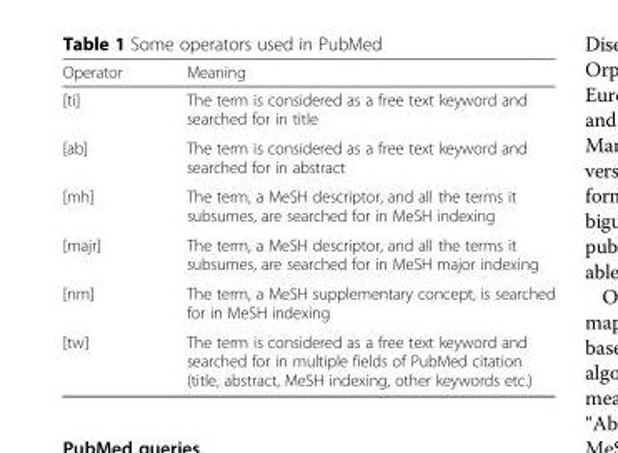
<table><thead><tr><td>Operator</td><td>Meaning</td></tr></thead><tbody><tr><td>[ti]</td><td>The term is considered as a free text keyword and searched for in title</td></tr><tr><td>[ab]</td><td>The term is considered as a free text keyword and searched for in abstract</td></tr><tr><td>[mh]</td><td>The term, a MeSH descriptor, and all the terms it subsumes, are searched for in MeSH indexing</td></tr><tr><td>[majr]</td><td>The term, a MeSH descriptor, and all the terms it subsumes, are searched for in MeSH major indexing</td></tr><tr><td>[nm]</td><td>The term, a MeSH supplementary concept, is searched for in MeSH indexing</td></tr><tr><td>[tw]</td><td>The term is considered as a free text keyword and searched for in multiple fields of PubMed citation (title, abstract, MeSH indexing, other keywords etc.)</td></tr></tbody></table>